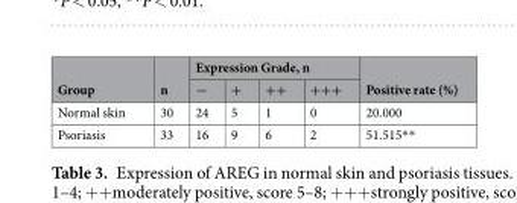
<table><thead><tr><td rowspan="2">Group</td><td rowspan="2">n</td><td colspan="4">Expression Grade, n</td><td rowspan="2">Positive rate (%)</td></tr><tr><td>−</td><td>+</td><td>++</td><td>+++</td></tr></thead><tbody><tr><td>Normal skin</td><td>30</td><td>24</td><td>5</td><td>1</td><td>0</td><td>20.000</td></tr><tr><td>Psoriasis</td><td>33</td><td>16</td><td>9</td><td>6</td><td>2</td><td>51.515**</td></tr></tbody></table>